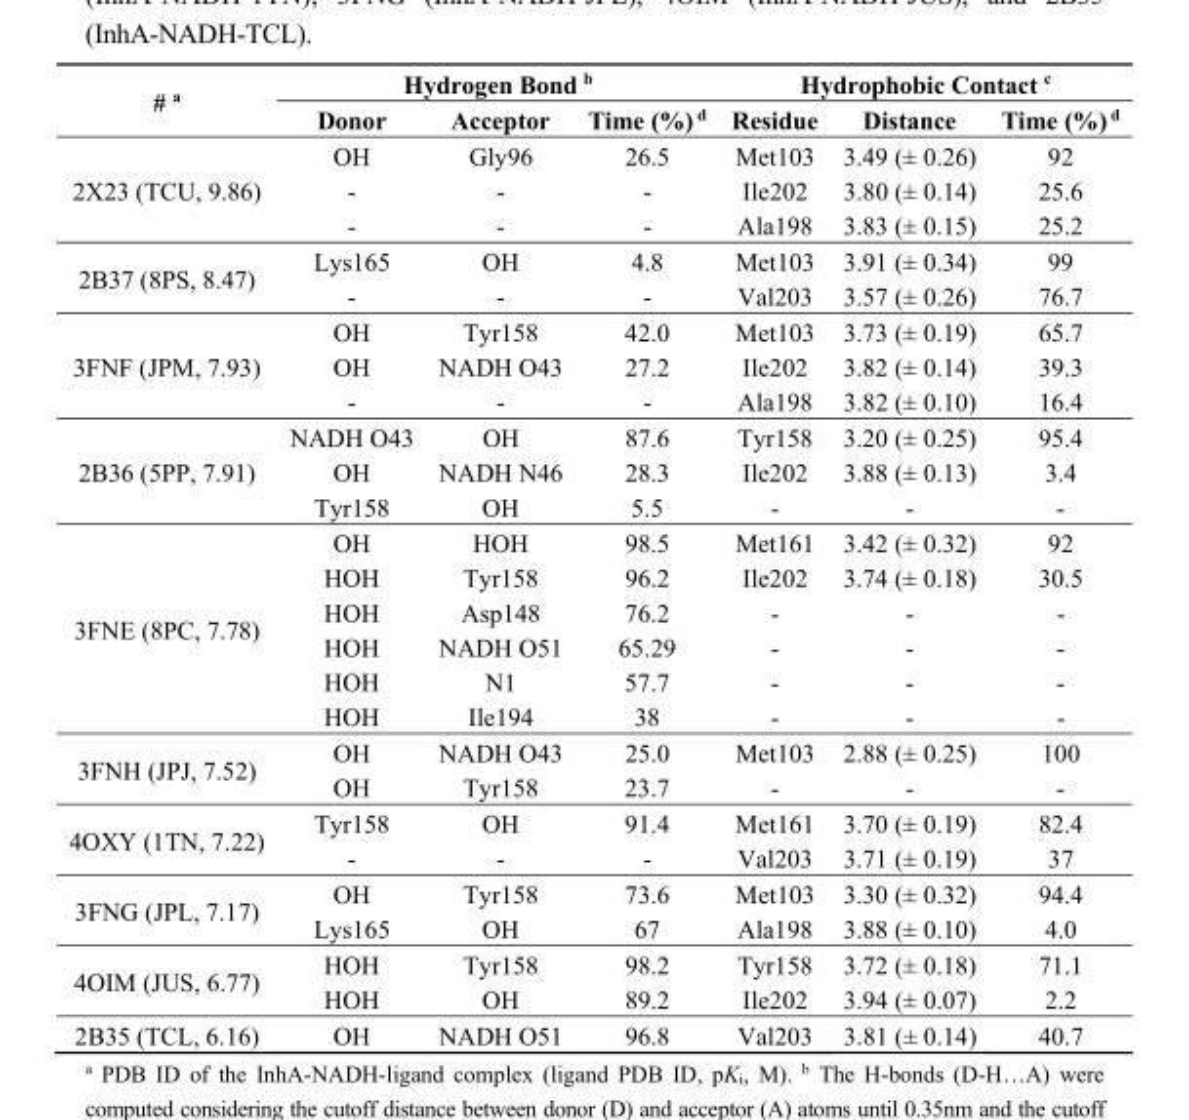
<table><thead><tr><td rowspan="2"># <sup>a</sup></td><td colspan="3">Hydrogen Bond <sup>b</sup></td><td colspan="3">Hydrophobic Contact <sup>c</sup></td></tr><tr><td>Donor</td><td>Acceptor</td><td>Time (%) <sup>d</sup></td><td>Residue</td><td>Distance</td><td>Time (%) <sup>d</sup></td></tr></thead><tbody><tr><td rowspan="3">2X23 (TCU, 9.86)</td><td>OH</td><td>Gly96</td><td>26.5</td><td>Met103</td><td>3.49 (± 0.26)</td><td>92</td></tr><tr><td>-</td><td>-</td><td>-</td><td>Ile202</td><td>3.80 (± 0.14)</td><td>25.6</td></tr><tr><td>-</td><td>-</td><td>-</td><td>Ala198</td><td>3.83 (± 0.15)</td><td>25.2</td></tr><tr><td rowspan="2">2B37 (8PS, 8.47)</td><td>Lys165</td><td>OH</td><td>4.8</td><td>Met103</td><td>3.91 (± 0.34)</td><td>99</td></tr><tr><td>-</td><td>-</td><td>-</td><td>Val203</td><td>3.57 (± 0.26)</td><td>76.7</td></tr><tr><td rowspan="3">3FNF (JPM, 7.93)</td><td>OH</td><td>Tyr158</td><td>42.0</td><td>Met103</td><td>3.73 (± 0.19)</td><td>65.7</td></tr><tr><td>OH</td><td>NADH O43</td><td>27.2</td><td>Ile202</td><td>3.82 (± 0.14)</td><td>39.3</td></tr><tr><td>-</td><td>-</td><td>-</td><td>Ala198</td><td>3.82 (± 0.10)</td><td>16.4</td></tr><tr><td rowspan="3">2B36 (5PP, 7.91)</td><td>NADH O43</td><td>OH</td><td>87.6</td><td>Tyr158</td><td>3.20 (± 0.25)</td><td>95.4</td></tr><tr><td>OH</td><td>NADH N46</td><td>28.3</td><td>Ile202</td><td>3.88 (± 0.13)</td><td>3.4</td></tr><tr><td>Tyr158</td><td>OH</td><td>5.5</td><td>-</td><td>-</td><td>-</td></tr><tr><td rowspan="6">3FNE (8PC, 7.78)</td><td>OH</td><td>HOH</td><td>98.5</td><td>Met161</td><td>3.42 (± 0.32)</td><td>92</td></tr><tr><td>HOH</td><td>Tyr158</td><td>96.2</td><td>Ile202</td><td>3.74 (± 0.18)</td><td>30.5</td></tr><tr><td>HOH</td><td>Asp148</td><td>76.2</td><td>-</td><td>-</td><td>-</td></tr><tr><td>HOH</td><td>NADH O51</td><td>65.29</td><td>-</td><td>-</td><td>-</td></tr><tr><td>HOH</td><td>N1</td><td>57.7</td><td>-</td><td>-</td><td>-</td></tr><tr><td>HOH</td><td>Ile194</td><td>38</td><td>-</td><td>-</td><td>-</td></tr><tr><td rowspan="2">3FNH (JPJ, 7.52)</td><td>OH</td><td>NADH O43</td><td>25.0</td><td>Met103</td><td>2.88 (± 0.25)</td><td>100</td></tr><tr><td>OH</td><td>Tyr158</td><td>23.7</td><td>-</td><td>-</td><td>-</td></tr><tr><td rowspan="2">4OXY (1TN, 7.22)</td><td>Tyr158</td><td>OH</td><td>91.4</td><td>Met161</td><td>3.70 (± 0.19)</td><td>82.4</td></tr><tr><td>-</td><td>-</td><td>-</td><td>Val203</td><td>3.71 (± 0.19)</td><td>37</td></tr><tr><td rowspan="2">3FNG (JPL, 7.17)</td><td>OH</td><td>Tyr158</td><td>73.6</td><td>Met103</td><td>3.30 (± 0.32)</td><td>94.4</td></tr><tr><td>Lys165</td><td>OH</td><td>67</td><td>Ala198</td><td>3.88 (± 0.10)</td><td>4.0</td></tr><tr><td rowspan="2">4OIM (JUS, 6.77)</td><td>HOH</td><td>Tyr158</td><td>98.2</td><td>Tyr158</td><td>3.72 (± 0.18)</td><td>71.1</td></tr><tr><td>HOH</td><td>OH</td><td>89.2</td><td>Ile202</td><td>3.94 (± 0.07)</td><td>2.2</td></tr><tr><td>2B35 (TCL, 6.16)</td><td>OH</td><td>NADH O51</td><td>96.8</td><td>Val203</td><td>3.81 (± 0.14)</td><td>40.7</td></tr></tbody></table>